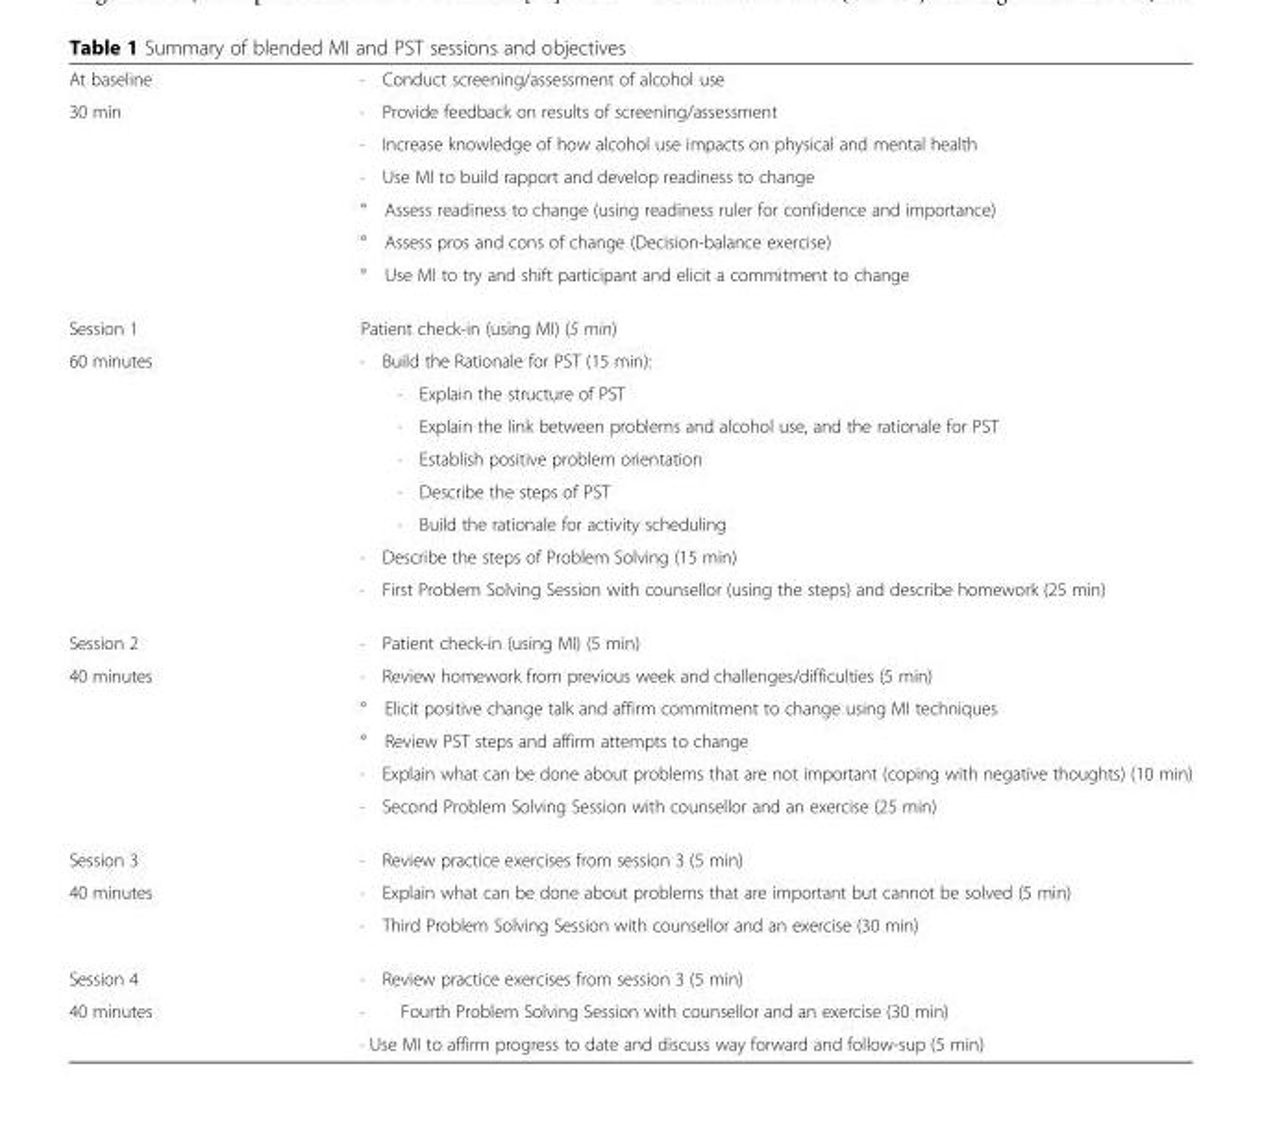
<table><tbody><tr><td>At baseline</td><td>· Conduct screening/assessment of alcohol use</td></tr><tr><td rowspan="6">30 min</td><td>· Provide feedback on results of screening/assessment</td></tr><tr><td>· Increase knowledge of how alcohol use impacts on physical and mental health</td></tr><tr><td>· Use MI to build rapport and develop readiness to change</td></tr><tr><td>° Assess readiness to change (using readiness ruler for confidence and importance)</td></tr><tr><td>° Assess pros and cons of change (Decision-balance exercise)</td></tr><tr><td>° Use MI to try and shift participant and elicit a commitment to change</td></tr><tr><td>Session 1</td><td>Patient check-in (using MI) (5 min)</td></tr><tr><td rowspan="8">60 minutes</td><td>· Build the Rationale for PST (15 min):</td></tr><tr><td>· Explain the structure of PST</td></tr><tr><td>· Explain the link between problems and alcohol use, and the rationale for PST</td></tr><tr><td>· Establish positive problem orientation</td></tr><tr><td>· Describe the steps of PST</td></tr><tr><td>· Build the rationale for activity scheduling</td></tr><tr><td>· Describe the steps of Problem Solving (15 min)</td></tr><tr><td>· First Problem Solving Session with counsellor (using the steps) and describe homework (25 min)</td></tr><tr><td>Session 2</td><td>· Patient check-in (using MI) (5 min)</td></tr><tr><td rowspan="5">40 minutes</td><td>· Review homework from previous week and challenges/difficulties (5 min)</td></tr><tr><td>° Elicit positive change talk and affirm commitment to change using MI techniques</td></tr><tr><td>° Review PST steps and affirm attempts to change</td></tr><tr><td>· Explain what can be done about problems that are not important (coping with negative thoughts) (10 min)</td></tr><tr><td>· Second Problem Solving Session with counsellor and an exercise (25 min)</td></tr><tr><td>Session 3</td><td>· Review practice exercises from session 3 (5 min)</td></tr><tr><td rowspan="2">40 minutes</td><td>· Explain what can be done about problems that are important but cannot be solved (5 min)</td></tr><tr><td>· Third Problem Solving Session with counsellor and an exercise (30 min)</td></tr><tr><td>Session 4</td><td>· Review practice exercises from session 3 (5 min)</td></tr><tr><td rowspan="2">40 minutes</td><td>· Fourth Problem Solving Session with counsellor and an exercise (30 min)</td></tr><tr><td>· Use MI to affirm progress to date and discuss way forward and follow-sup (5 min)</td></tr></tbody></table>